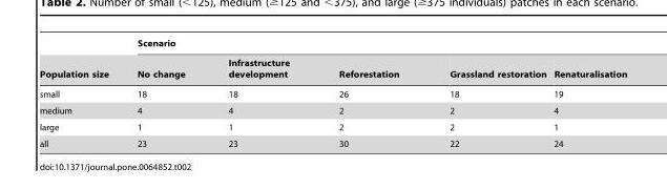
<table><thead><tr><td rowspan="2">Population size</td><td colspan="5">Scenario</td></tr><tr><td>No change</td><td>Infrastructure development</td><td>Reforestation</td><td>Grassland restoration</td><td>Renaturalisation</td></tr></thead><tbody><tr><td>small</td><td>18</td><td>18</td><td>26</td><td>18</td><td>19</td></tr><tr><td>medium</td><td>4</td><td>4</td><td>2</td><td>2</td><td>4</td></tr><tr><td>large</td><td>1</td><td>1</td><td>2</td><td>2</td><td>1</td></tr><tr><td>all</td><td>23</td><td>23</td><td>30</td><td>22</td><td>24</td></tr></tbody></table>